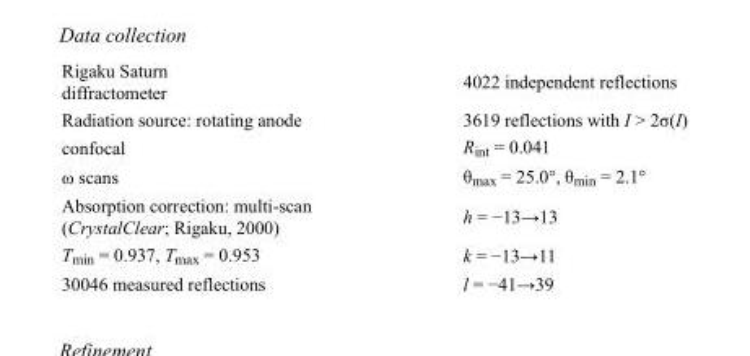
<table><tbody><tr><td>Rigaku Saturn diffractometer</td><td>4022 independent reflections</td></tr><tr><td>Radiation source: rotating anode</td><td>3619 reflections with I &gt; 2σ(I)</td></tr><tr><td>confocal</td><td>R<sub>int</sub> = 0.041</td></tr><tr><td>ω scans</td><td>θ<sub>max</sub> = 25.0°, θ<sub>min</sub> = 2.1°</td></tr><tr><td>Absorption correction: multi-scan (CrystalClear; Rigaku, 2000)</td><td>h = −13→13</td></tr><tr><td>T<sub>min</sub> = 0.937, T<sub>max</sub> = 0.953</td><td>k = −13→11</td></tr><tr><td>30046 measured reflections</td><td>l = −41→39</td></tr></tbody></table>